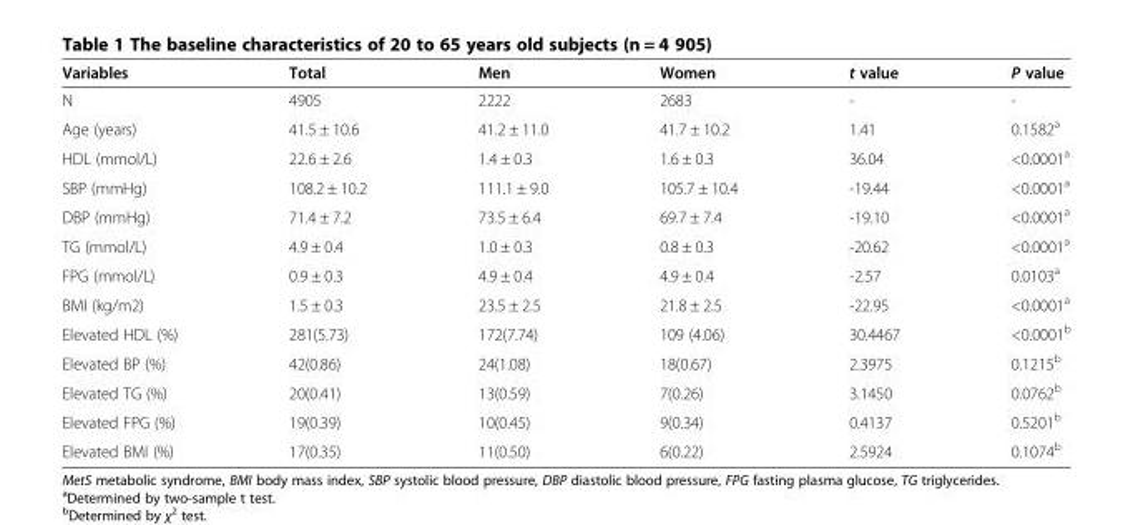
<table><thead><tr><td>Variables</td><td>Total</td><td>Men</td><td>Women</td><td>t value</td><td>P value</td></tr></thead><tbody><tr><td>N</td><td>4905</td><td>2222</td><td>2683</td><td>-</td><td>-</td></tr><tr><td>Age (years)</td><td>41.5 ± 10.6</td><td>41.2 ± 11.0</td><td>41.7 ± 10.2</td><td>1.41</td><td>0.1582<sup>a</sup></td></tr><tr><td>HDL (mmol/L)</td><td>22.6 ± 2.6</td><td>1.4 ± 0.3</td><td>1.6 ± 0.3</td><td>36.04</td><td>&lt;0.0001<sup>a</sup></td></tr><tr><td>SBP (mmHg)</td><td>108.2 ± 10.2</td><td>111.1 ± 9.0</td><td>105.7 ± 10.4</td><td>-19.44</td><td>&lt;0.0001<sup>a</sup></td></tr><tr><td>DBP (mmHg)</td><td>71.4 ± 7.2</td><td>73.5 ± 6.4</td><td>69.7 ± 7.4</td><td>-19.10</td><td>&lt;0.0001<sup>a</sup></td></tr><tr><td>TG (mmol/L)</td><td>4.9 ± 0.4</td><td>1.0 ± 0.3</td><td>0.8 ± 0.3</td><td>-20.62</td><td>&lt;0.0001<sup>a</sup></td></tr><tr><td>FPG (mmol/L)</td><td>0.9 ± 0.3</td><td>4.9 ± 0.4</td><td>4.9 ± 0.4</td><td>-2.57</td><td>0.0103<sup>a</sup></td></tr><tr><td>BMI (kg/m2)</td><td>1.5 ± 0.3</td><td>23.5 ± 2.5</td><td>21.8 ± 2.5</td><td>-22.95</td><td>&lt;0.0001<sup>a</sup></td></tr><tr><td>Elevated HDL (%)</td><td>281(5.73)</td><td>172(7.74)</td><td>109 (4.06)</td><td>30.4467</td><td>&lt;0.0001<sup>b</sup></td></tr><tr><td>Elevated BP (%)</td><td>42(0.86)</td><td>24(1.08)</td><td>18(0.67)</td><td>2.3975</td><td>0.1215<sup>b</sup></td></tr><tr><td>Elevated TG (%)</td><td>20(0.41)</td><td>13(0.59)</td><td>7(0.26)</td><td>3.1450</td><td>0.0762<sup>b</sup></td></tr><tr><td>Elevated FPG (%)</td><td>19(0.39)</td><td>10(0.45)</td><td>9(0.34)</td><td>0.4137</td><td>0.5201<sup>b</sup></td></tr><tr><td>Elevated BMI (%)</td><td>17(0.35)</td><td>11(0.50)</td><td>6(0.22)</td><td>2.5924</td><td>0.1074<sup>b</sup></td></tr></tbody></table>